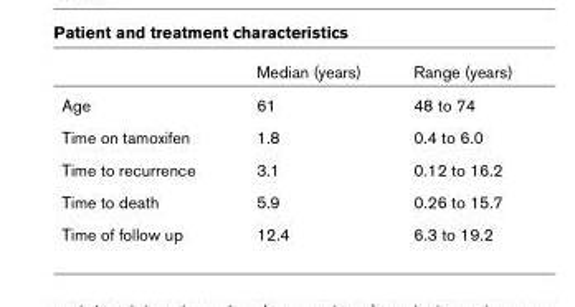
<table><thead><tr><td></td><td>Median (years)</td><td>Range (years)</td></tr></thead><tbody><tr><td>Age</td><td>61</td><td>48 to 74</td></tr><tr><td>Time on tamoxifen</td><td>1.8</td><td>0.4 to 6.0</td></tr><tr><td>Time to recurrence</td><td>3.1</td><td>0.12 to 16.2</td></tr><tr><td>Time to death</td><td>5.9</td><td>0.26 to 15.7</td></tr><tr><td>Time of follow up</td><td>12.4</td><td>6.3 to 19.2</td></tr></tbody></table>